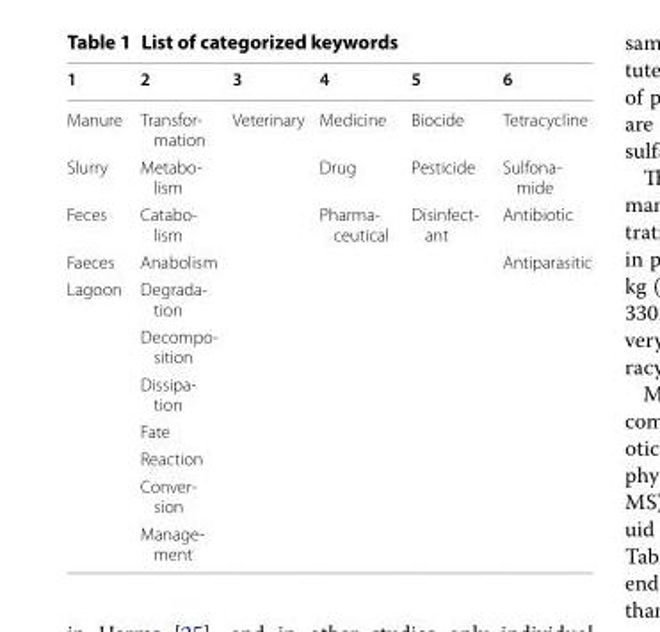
<table><thead><tr><td>1</td><td>2</td><td>3</td><td>4</td><td>5</td><td>6</td></tr></thead><tbody><tr><td>Manure</td><td>Transfor‑ mation</td><td>Veterinary</td><td>Medicine</td><td>Biocide</td><td>Tetracycline</td></tr><tr><td>Slurry</td><td>Metabo‑ lism</td><td></td><td>Drug</td><td>Pesticide</td><td>Sulfona‑ mide</td></tr><tr><td>Feces</td><td>Catabo‑ lism</td><td></td><td>Pharma‑ ceutical</td><td>Disinfect‑ ant</td><td>Antibiotic</td></tr><tr><td>Faeces</td><td>Anabolism</td><td></td><td></td><td></td><td>Antiparasitic</td></tr><tr><td rowspan="7">Lagoon</td><td>Degrada‑ tion</td><td></td><td></td><td></td><td></td></tr><tr><td>Decompo‑ sition</td><td></td><td></td><td></td><td></td></tr><tr><td>Dissipa‑ tion</td><td></td><td></td><td></td><td></td></tr><tr><td>Fate</td><td></td><td></td><td></td><td></td></tr><tr><td>Reaction</td><td></td><td></td><td></td><td></td></tr><tr><td>Conver‑ sion</td><td></td><td></td><td></td><td></td></tr><tr><td>Manage‑ ment</td><td></td><td></td><td></td><td></td></tr></tbody></table>